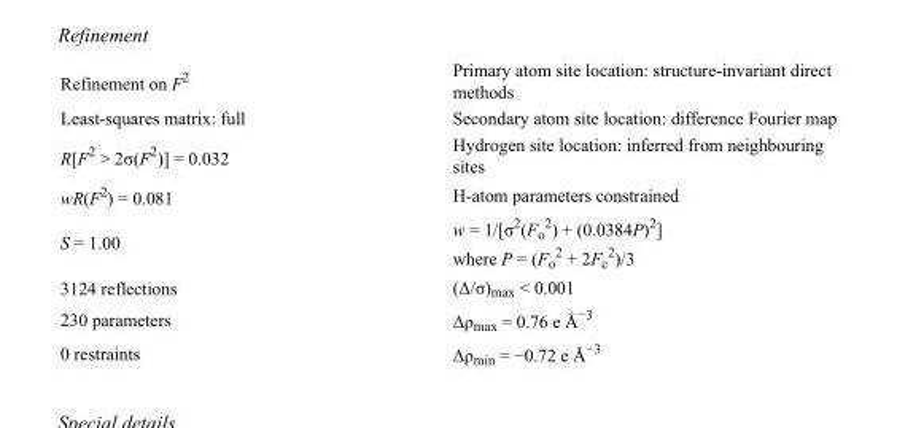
<table><tbody><tr><td>Refinement on F<sup>2</sup></td><td>Primary atom site location: structure-invariant direct methods</td></tr><tr><td>Least-squares matrix: full</td><td>Secondary atom site location: difference Fourier map</td></tr><tr><td>R[F<sup>2</sup> &gt; 2σ(F<sup>2</sup>)] = 0.032</td><td>Hydrogen site location: inferred from neighbouring sites</td></tr><tr><td>wR(F<sup>2</sup>) = 0.081</td><td>H-atom parameters constrained</td></tr><tr><td>S = 1.00</td><td>w = 1/[σ<sup>2</sup>(F<sub>o</sub> <sup>2</sup>) + (0.0384P)<sup>2</sup>] where P = (F<sub>o</sub> <sup>2</sup> + 2F<sub>c</sub> <sup>2</sup>)/3</td></tr><tr><td>3124 reflections</td><td>(Δ/σ)<sub>max</sub> &lt; 0.001</td></tr><tr><td>230 parameters</td><td>Δρ<sub>max</sub> = 0.76 e Å<sup>−3</sup></td></tr><tr><td>0 restraints</td><td>Δρ<sub>min</sub> = −0.72 e Å<sup>−3</sup></td></tr></tbody></table>